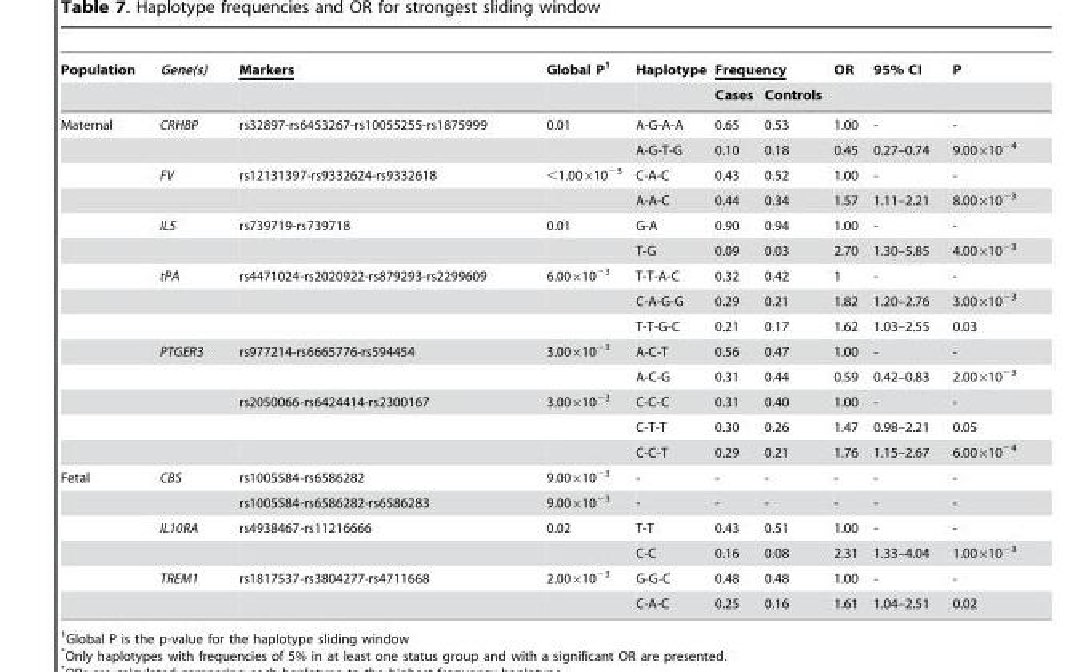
<table><thead><tr><td rowspan="2">Population</td><td rowspan="2">Gene(s)</td><td rowspan="2">Markers</td><td rowspan="2">Global P<sup>1</sup></td><td rowspan="2">Haplotype</td><td colspan="2">Frequency</td><td rowspan="2">OR</td><td rowspan="2">95% CI</td><td rowspan="2">P</td></tr><tr><td>Cases</td><td>Controls</td></tr></thead><tbody><tr><td rowspan="14">Maternal</td><td>CRHBP</td><td>rs32897-rs6453267-rs10055255-rs1875999</td><td>0.01</td><td>A-G-A-A</td><td>0.65</td><td>0.53</td><td>1.00</td><td>-</td><td>-</td></tr><tr><td></td><td></td><td></td><td>A-G-T-G</td><td>0.10</td><td>0.18</td><td>0.45</td><td>0.27–0.74</td><td>9.00×10<sup>−4</sup></td></tr><tr><td>FV</td><td>rs12131397-rs9332624-rs9332618</td><td>&lt;1.00×10<sup>−3</sup></td><td>C-A-C</td><td>0.43</td><td>0.52</td><td>1.00</td><td>-</td><td>-</td></tr><tr><td></td><td></td><td></td><td>A-A-C</td><td>0.44</td><td>0.34</td><td>1.57</td><td>1.11–2.21</td><td>8.00×10<sup>−3</sup></td></tr><tr><td>IL5</td><td>rs739719-rs739718</td><td>0.01</td><td>G-A</td><td>0.90</td><td>0.94</td><td>1.00</td><td>-</td><td>-</td></tr><tr><td></td><td></td><td></td><td>T-G</td><td>0.09</td><td>0.03</td><td>2.70</td><td>1.30–5.85</td><td>4.00×10<sup>−3</sup></td></tr><tr><td>tPA</td><td>rs4471024-rs2020922-rs879293-rs2299609</td><td>6.00×10<sup>−3</sup></td><td>T-T-A-C</td><td>0.32</td><td>0.42</td><td>1</td><td>-</td><td>-</td></tr><tr><td></td><td></td><td></td><td>C-A-G-G</td><td>0.29</td><td>0.21</td><td>1.82</td><td>1.20–2.76</td><td>3.00×10<sup>−3</sup></td></tr><tr><td></td><td></td><td></td><td>T-T-G-C</td><td>0.21</td><td>0.17</td><td>1.62</td><td>1.03–2.55</td><td>0.03</td></tr><tr><td>PTGER3</td><td>rs977214-rs6665776-rs594454</td><td>3.00×10<sup>−3</sup></td><td>A-C-T</td><td>0.56</td><td>0.47</td><td>1.00</td><td>-</td><td>-</td></tr><tr><td></td><td></td><td></td><td>A-C-G</td><td>0.31</td><td>0.44</td><td>0.59</td><td>0.42–0.83</td><td>2.00×10<sup>−3</sup></td></tr><tr><td></td><td>rs2050066-rs6424414-rs2300167</td><td>3.00×10<sup>−3</sup></td><td>C-C-C</td><td>0.31</td><td>0.40</td><td>1.00</td><td>-</td><td>-</td></tr><tr><td></td><td></td><td></td><td>C-T-T</td><td>0.30</td><td>0.26</td><td>1.47</td><td>0.98–2.21</td><td>0.05</td></tr><tr><td></td><td></td><td></td><td>C-C-T</td><td>0.29</td><td>0.21</td><td>1.76</td><td>1.15–2.67</td><td>6.00×10<sup>−4</sup></td></tr><tr><td rowspan="6">Fetal</td><td>CBS</td><td>rs1005584-rs6586282</td><td>9.00×10<sup>−3</sup></td><td>-</td><td>-</td><td>-</td><td>-</td><td>-</td><td>-</td></tr><tr><td></td><td>rs1005584-rs6586282-rs6586283</td><td>9.00×10<sup>−3</sup></td><td>-</td><td>-</td><td>-</td><td>-</td><td>-</td><td>-</td></tr><tr><td>IL10RA</td><td>rs4938467-rs11216666</td><td>0.02</td><td>T-T</td><td>0.43</td><td>0.51</td><td>1.00</td><td>-</td><td>-</td></tr><tr><td></td><td></td><td></td><td>C-C</td><td>0.16</td><td>0.08</td><td>2.31</td><td>1.33–4.04</td><td>1.00×10<sup>−3</sup></td></tr><tr><td>TREM1</td><td>rs1817537-rs3804277-rs4711668</td><td>2.00×10<sup>−3</sup></td><td>G-G-C</td><td>0.48</td><td>0.48</td><td>1.00</td><td>-</td><td>-</td></tr><tr><td></td><td></td><td></td><td>C-A-C</td><td>0.25</td><td>0.16</td><td>1.61</td><td>1.04–2.51</td><td>0.02</td></tr></tbody></table>